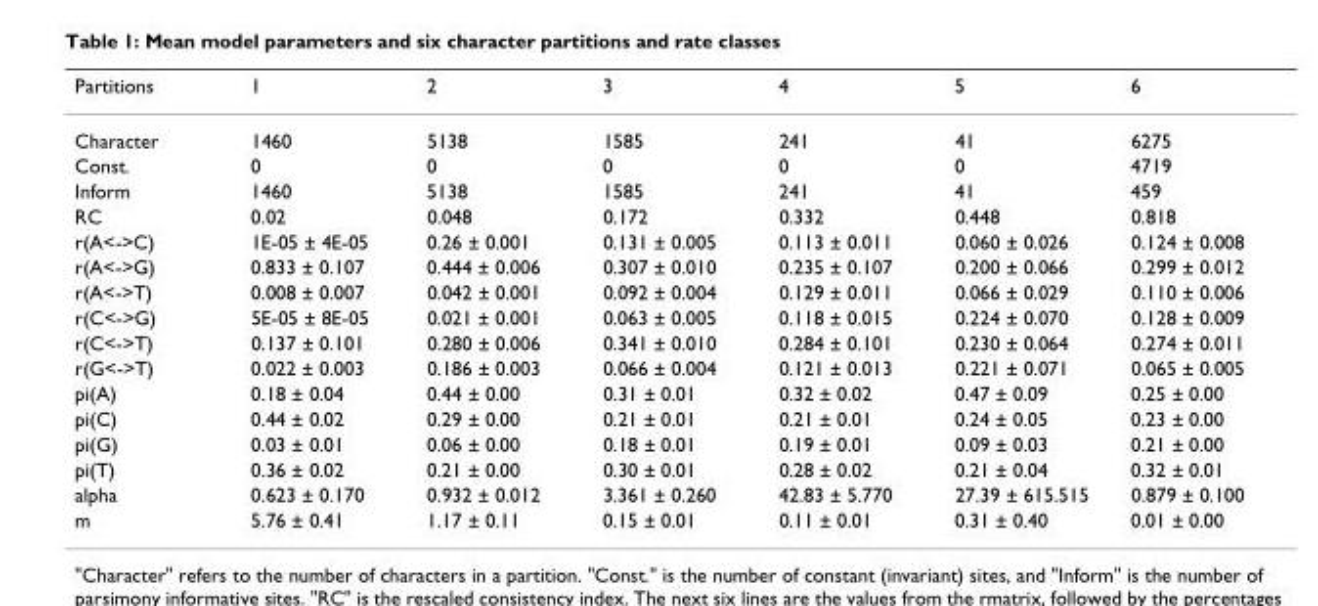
<table><thead><tr><td>Partitions</td><td>1</td><td>2</td><td>3</td><td>4</td><td>5</td><td>6</td></tr></thead><tbody><tr><td>Character</td><td>1460</td><td>5138</td><td>1585</td><td>241</td><td>41</td><td>6275</td></tr><tr><td>Const.</td><td>0</td><td>0</td><td>0</td><td>0</td><td>0</td><td>4719</td></tr><tr><td>Inform</td><td>1460</td><td>5138</td><td>1585</td><td>241</td><td>41</td><td>459</td></tr><tr><td>RC</td><td>0.02</td><td>0.048</td><td>0.172</td><td>0.332</td><td>0.448</td><td>0.818</td></tr><tr><td>r(A&lt;-&gt;C)</td><td>1E-05 ± 4E-05</td><td>0.26 ± 0.001</td><td>0.131 ± 0.005</td><td>0.113 ± 0.011</td><td>0.060 ± 0.026</td><td>0.124 ± 0.008</td></tr><tr><td>r(A&lt;-&gt;G)</td><td>0.833 ± 0.107</td><td>0.444 ± 0.006</td><td>0.307 ± 0.010</td><td>0.235 ± 0.107</td><td>0.200 ± 0.066</td><td>0.299 ± 0.012</td></tr><tr><td>r(A&lt;-&gt;T)</td><td>0.008 ± 0.007</td><td>0.042 ± 0.001</td><td>0.092 ± 0.004</td><td>0.129 ± 0.011</td><td>0.066 ± 0.029</td><td>0.110 ± 0.006</td></tr><tr><td>r(C&lt;-&gt;G)</td><td>5E-05 ± 8E-05</td><td>0.021 ± 0.001</td><td>0.063 ± 0.005</td><td>0.118 ± 0.015</td><td>0.224 ± 0.070</td><td>0.128 ± 0.009</td></tr><tr><td>r(C&lt;-&gt;T)</td><td>0.137 ± 0.101</td><td>0.280 ± 0.006</td><td>0.341 ± 0.010</td><td>0.284 ± 0.101</td><td>0.230 ± 0.064</td><td>0.274 ± 0.011</td></tr><tr><td>r(G&lt;-&gt;T)</td><td>0.022 ± 0.003</td><td>0.186 ± 0.003</td><td>0.066 ± 0.004</td><td>0.121 ± 0.013</td><td>0.221 ± 0.071</td><td>0.065 ± 0.005</td></tr><tr><td>pi(A)</td><td>0.18 ± 0.04</td><td>0.44 ± 0.00</td><td>0.31 ± 0.01</td><td>0.32 ± 0.02</td><td>0.47 ± 0.09</td><td>0.25 ± 0.00</td></tr><tr><td>pi(C)</td><td>0.44 ± 0.02</td><td>0.29 ± 0.00</td><td>0.21 ± 0.01</td><td>0.21 ± 0.01</td><td>0.24 ± 0.05</td><td>0.23 ± 0.00</td></tr><tr><td>pi(G)</td><td>0.03 ± 0.01</td><td>0.06 ± 0.00</td><td>0.18 ± 0.01</td><td>0.19 ± 0.01</td><td>0.09 ± 0.03</td><td>0.21 ± 0.00</td></tr><tr><td>pi(T)</td><td>0.36 ± 0.02</td><td>0.21 ± 0.00</td><td>0.30 ± 0.01</td><td>0.28 ± 0.02</td><td>0.21 ± 0.04</td><td>0.32 ± 0.01</td></tr><tr><td>alpha</td><td>0.623 ± 0.170</td><td>0.932 ± 0.012</td><td>3.361 ± 0.260</td><td>42.83 ± 5.770</td><td>27.39 ± 615.515</td><td>0.879 ± 0.100</td></tr><tr><td>m</td><td>5.76 ± 0.41</td><td>1.17 ± 0.11</td><td>0.15 ± 0.01</td><td>0.11 ± 0.01</td><td>0.31 ± 0.40</td><td>0.01 ± 0.00</td></tr></tbody></table>